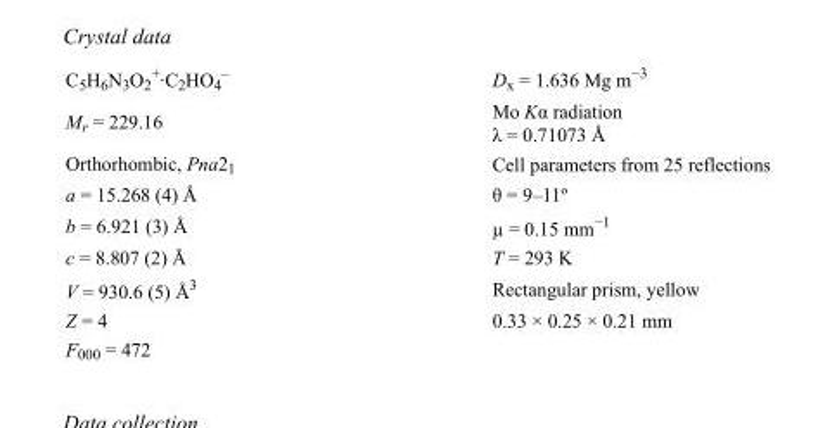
<table><tbody><tr><td>C<sub>5</sub>H<sub>6</sub>N<sub>3</sub>O<sub>2</sub> <sup>+</sup>·C<sub>2</sub>HO<sub>4</sub> <sup>–</sup></td><td>D<sub>x</sub> = 1.636 Mg m<sup>−3</sup></td></tr><tr><td>M<sub>r</sub> = 229.16</td><td>Mo Kα radiation λ = 0.71073 Å</td></tr><tr><td>Orthorhombic, Pna2<sub>1</sub></td><td>Cell parameters from 25 reflections</td></tr><tr><td>a = 15.268 (4) Å</td><td>θ = 9–11º</td></tr><tr><td>b = 6.921 (3) Å</td><td>µ = 0.15 mm<sup>−1</sup></td></tr><tr><td>c = 8.807 (2) Å</td><td>T = 293 K</td></tr><tr><td>V = 930.6 (5) Å<sup>3</sup></td><td>Rectangular prism, yellow</td></tr><tr><td>Z = 4</td><td>0.33 × 0.25 × 0.21 mm</td></tr><tr><td>F000 = 472</td><td></td></tr></tbody></table>